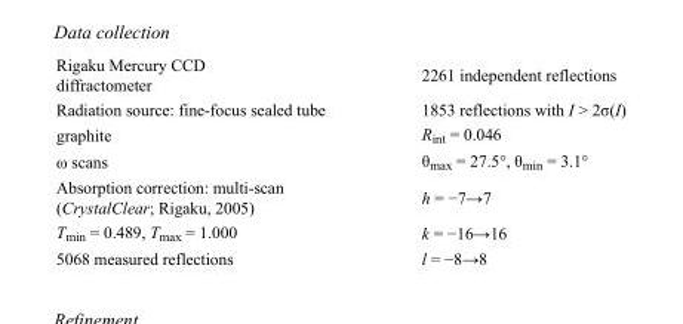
<table><tbody><tr><td>Rigaku Mercury CCD diffractometer</td><td>2261 independent reflections</td></tr><tr><td>Radiation source: fine-focus sealed tube</td><td>1853 reflections with I &gt; 2σ(I)</td></tr><tr><td>graphite</td><td>R<sub>int</sub> = 0.046</td></tr><tr><td>ω scans</td><td>θ<sub>max</sub> = 27.5°, θ<sub>min</sub> = 3.1°</td></tr><tr><td>Absorption correction: multi-scan (CrystalClear; Rigaku, 2005)</td><td>h = −7→7</td></tr><tr><td>T<sub>min</sub> = 0.489, T<sub>max</sub> = 1.000</td><td>k = −16→16</td></tr><tr><td>5068 measured reflections</td><td>l = −8→8</td></tr></tbody></table>